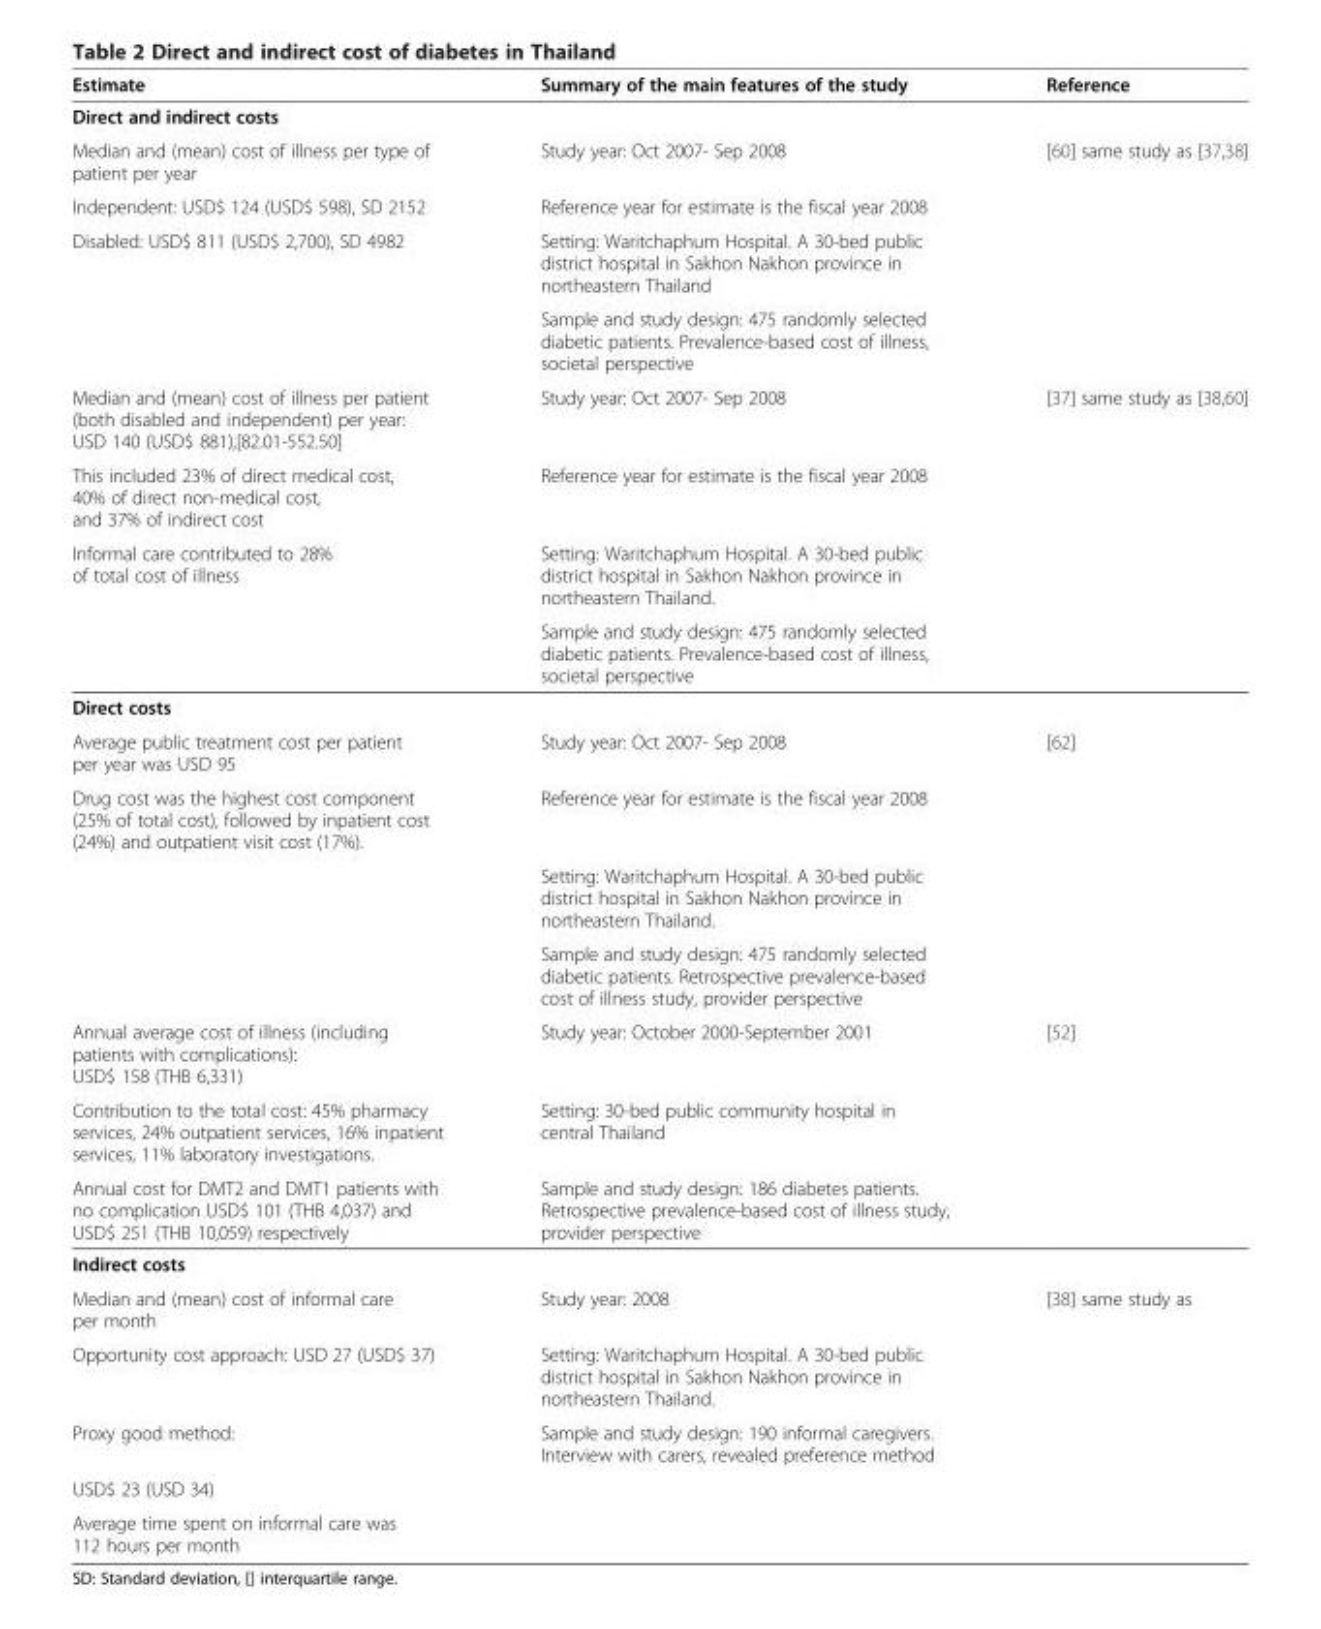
<table><thead><tr><td>Estimate</td><td>Summary of the main features of the study</td><td>Reference</td></tr></thead><tbody><tr><td colspan="3">Direct and indirect costs</td></tr><tr><td>Median and (mean) cost of illness per type of patient per year</td><td>Study year: Oct 2007- Sep 2008</td><td rowspan="3">[60] same study as [37,38]</td></tr><tr><td>Independent: USD$ 124 (USD$ 598), SD 2152</td><td>Reference year for estimate is the fiscal year 2008</td></tr><tr><td rowspan="2">Disabled: USD$ 811 (USD$ 2,700), SD 4982</td><td>Setting: Waritchaphum Hospital. A 30-bed public district hospital in Sakhon Nakhon province in northeastern Thailand</td></tr><tr><td>Sample and study design: 475 randomly selected diabetic patients. Prevalence-based cost of illness, societal perspective</td><td></td></tr><tr><td>Median and (mean) cost of illness per patient (both disabled and independent) per year: USD 140 (USD$ 881),[82.01-552.50]</td><td>Study year: Oct 2007- Sep 2008</td><td rowspan="3">[37] same study as [38,60]</td></tr><tr><td>This included 23% of direct medical cost, 40% of direct non-medical cost, and 37% of indirect cost</td><td>Reference year for estimate is the fiscal year 2008</td></tr><tr><td rowspan="2">Informal care contributed to 28% of total cost of illness</td><td>Setting: Waritchaphum Hospital. A 30-bed public district hospital in Sakhon Nakhon province in northeastern Thailand.</td></tr><tr><td>Sample and study design: 475 randomly selected diabetic patients. Prevalence-based cost of illness, societal perspective</td><td></td></tr><tr><td colspan="3">Direct costs</td></tr><tr><td>Average public treatment cost per patient per year was USD 95</td><td>Study year: Oct 2007- Sep 2008</td><td rowspan="3">[62]</td></tr><tr><td rowspan="3">Drug cost was the highest cost component (25% of total cost), followed by inpatient cost (24%) and outpatient visit cost (17%).</td><td>Reference year for estimate is the fiscal year 2008</td></tr><tr><td>Setting: Waritchaphum Hospital. A 30-bed public district hospital in Sakhon Nakhon province in northeastern Thailand.</td></tr><tr><td>Sample and study design: 475 randomly selected diabetic patients. Retrospective prevalence-based cost of illness study, provider perspective</td><td></td></tr><tr><td>Annual average cost of illness (including patients with complications): USD$ 158 (THB 6,331)</td><td>Study year: October 2000-September 2001</td><td rowspan="2">[52]</td></tr><tr><td>Contribution to the total cost: 45% pharmacy services, 24% outpatient services, 16% inpatient services, 11% laboratory investigations.</td><td>Setting: 30-bed public community hospital in central Thailand</td></tr><tr><td>Annual cost for DMT2 and DMT1 patients with no complication USD$ 101 (THB 4,037) and USD$ 251 (THB 10,059) respectively</td><td>Sample and study design: 186 diabetes patients. Retrospective prevalence-based cost of illness study, provider perspective</td><td></td></tr><tr><td colspan="3">Indirect costs</td></tr><tr><td>Median and (mean) cost of informal care per month</td><td>Study year: 2008</td><td rowspan="4">[38] same study as</td></tr><tr><td>Opportunity cost approach: USD 27 (USD$ 37)</td><td>Setting: Waritchaphum Hospital. A 30-bed public district hospital in Sakhon Nakhon province in northeastern Thailand.</td></tr><tr><td>Proxy good method:</td><td>Sample and study design: 190 informal caregivers. Interview with carers, revealed preference method</td></tr><tr><td colspan="2">USD$ 23 (USD 34)</td></tr><tr><td>Average time spent on informal care was 112 hours per month</td><td></td><td></td></tr></tbody></table>